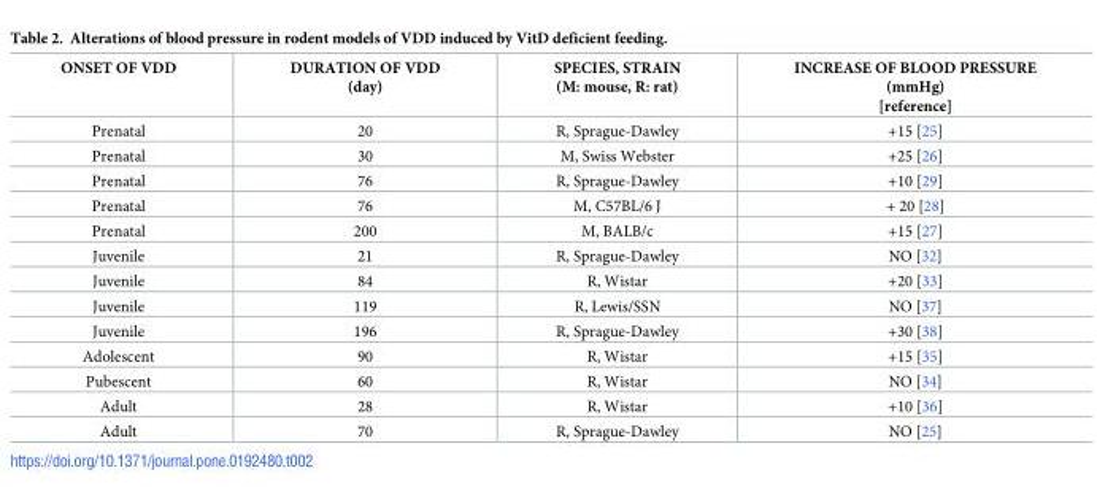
<table><thead><tr><td>ONSET OF VDD</td><td>DURATION OF VDD (day)</td><td>SPECIES, STRAIN (M: mouse, R: rat)</td><td>INCREASE OF BLOOD PRESSURE (mmHg) [reference]</td></tr></thead><tbody><tr><td>Prenatal</td><td>20</td><td>R, Sprague-Dawley</td><td>+15 [25]</td></tr><tr><td>Prenatal</td><td>30</td><td>M, Swiss Webster</td><td>+25 [26]</td></tr><tr><td>Prenatal</td><td>76</td><td>R, Sprague-Dawley</td><td>+10 [29]</td></tr><tr><td>Prenatal</td><td>76</td><td>M, C57BL/6 J</td><td>+ 20 [28]</td></tr><tr><td>Prenatal</td><td>200</td><td>M, BALB/c</td><td>+15 [27]</td></tr><tr><td>Juvenile</td><td>21</td><td>R, Sprague-Dawley</td><td>NO [32]</td></tr><tr><td>Juvenile</td><td>84</td><td>R, Wistar</td><td>+20 [33]</td></tr><tr><td>Juvenile</td><td>119</td><td>R, Lewis/SSN</td><td>NO [37]</td></tr><tr><td>Juvenile</td><td>196</td><td>R, Sprague-Dawley</td><td>+30 [38]</td></tr><tr><td>Adolescent</td><td>90</td><td>R, Wistar</td><td>+15 [35]</td></tr><tr><td>Pubescent</td><td>60</td><td>R, Wistar</td><td>NO [34]</td></tr><tr><td>Adult</td><td>28</td><td>R, Wistar</td><td>+10 [36]</td></tr><tr><td>Adult</td><td>70</td><td>R, Sprague-Dawley</td><td>NO [25]</td></tr></tbody></table>